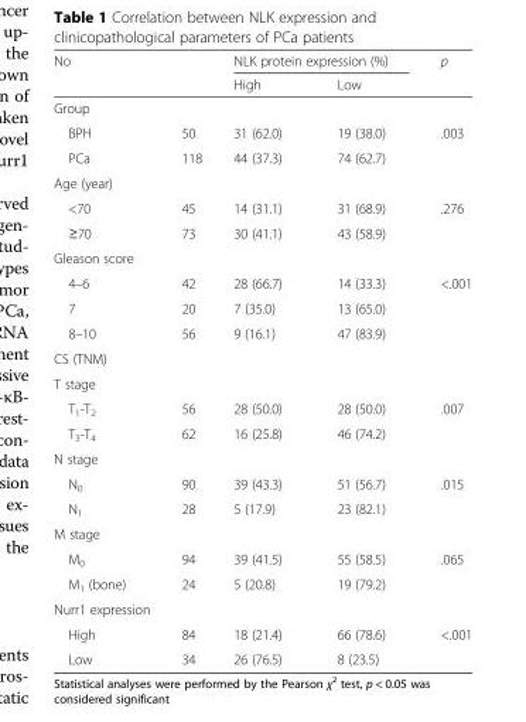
<table><thead><tr><td rowspan="2" colspan="2">No</td><td colspan="2">NLK protein expression (%)</td><td rowspan="3">p</td></tr><tr><td rowspan="2">High</td><td rowspan="2">Low</td></tr><tr><td>Group</td><td></td></tr></thead><tbody><tr><td>BPH</td><td>50</td><td>31 (62.0)</td><td>19 (38.0)</td><td>.003</td></tr><tr><td>PCa</td><td>118</td><td>44 (37.3)</td><td>74 (62.7)</td><td></td></tr><tr><td colspan="5">Age (year)</td></tr><tr><td>&lt;70</td><td>45</td><td>14 (31.1)</td><td>31 (68.9)</td><td>.276</td></tr><tr><td>≥70</td><td>73</td><td>30 (41.1)</td><td>43 (58.9)</td><td></td></tr><tr><td colspan="5">Gleason score</td></tr><tr><td>4–6</td><td>42</td><td>28 (66.7)</td><td>14 (33.3)</td><td>&lt;.001</td></tr><tr><td>7</td><td>20</td><td>7 (35.0)</td><td>13 (65.0)</td><td></td></tr><tr><td>8–10</td><td>56</td><td>9 (16.1)</td><td>47 (83.9)</td><td></td></tr><tr><td colspan="5">CS (TNM)</td></tr><tr><td colspan="5">T stage</td></tr><tr><td>T<sub>1</sub>-T<sub>2</sub></td><td>56</td><td>28 (50.0)</td><td>28 (50.0)</td><td>.007</td></tr><tr><td>T<sub>3</sub>-T<sub>4</sub></td><td>62</td><td>16 (25.8)</td><td>46 (74.2)</td><td></td></tr><tr><td colspan="5">N stage</td></tr><tr><td>N<sub>0</sub></td><td>90</td><td>39 (43.3)</td><td>51 (56.7)</td><td>.015</td></tr><tr><td>N<sub>1</sub></td><td>28</td><td>5 (17.9)</td><td>23 (82.1)</td><td></td></tr><tr><td colspan="5">M stage</td></tr><tr><td>M<sub>0</sub></td><td>94</td><td>39 (41.5)</td><td>55 (58.5)</td><td>.065</td></tr><tr><td>M<sub>1</sub> (bone)</td><td>24</td><td>5 (20.8)</td><td>19 (79.2)</td><td></td></tr><tr><td colspan="5">Nurr1 expression</td></tr><tr><td>High</td><td>84</td><td>18 (21.4)</td><td>66 (78.6)</td><td>&lt;.001</td></tr><tr><td>Low</td><td>34</td><td>26 (76.5)</td><td>8 (23.5)</td><td></td></tr></tbody></table>